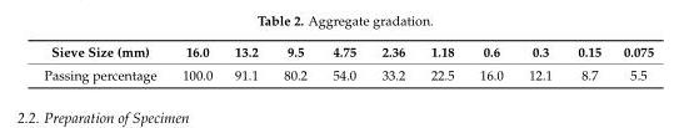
<table><thead><tr><td>Sieve Size (mm)</td><td>16.0</td><td>13.2</td><td>9.5</td><td>4.75</td><td>2.36</td><td>1.18</td><td>0.6</td><td>0.3</td><td>0.15</td><td>0.075</td></tr></thead><tbody><tr><td>Passing percentage</td><td>100.0</td><td>91.1</td><td>80.2</td><td>54.0</td><td>33.2</td><td>22.5</td><td>16.0</td><td>12.1</td><td>8.7</td><td>5.5</td></tr></tbody></table>